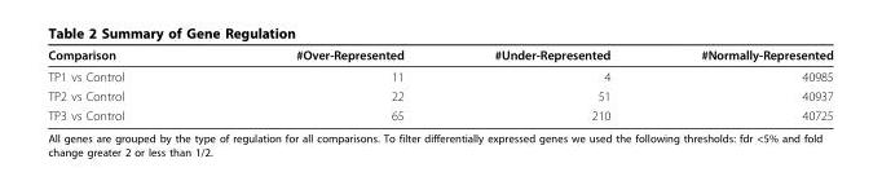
<table><thead><tr><td>Comparison</td><td>#Over-Represented</td><td>#Under-Represented</td><td>#Normally-Represented</td></tr></thead><tbody><tr><td>TP1 vs Control</td><td>11</td><td>4</td><td>40985</td></tr><tr><td>TP2 vs Control</td><td>22</td><td>51</td><td>40937</td></tr><tr><td>TP3 vs Control</td><td>65</td><td>210</td><td>40725</td></tr></tbody></table>